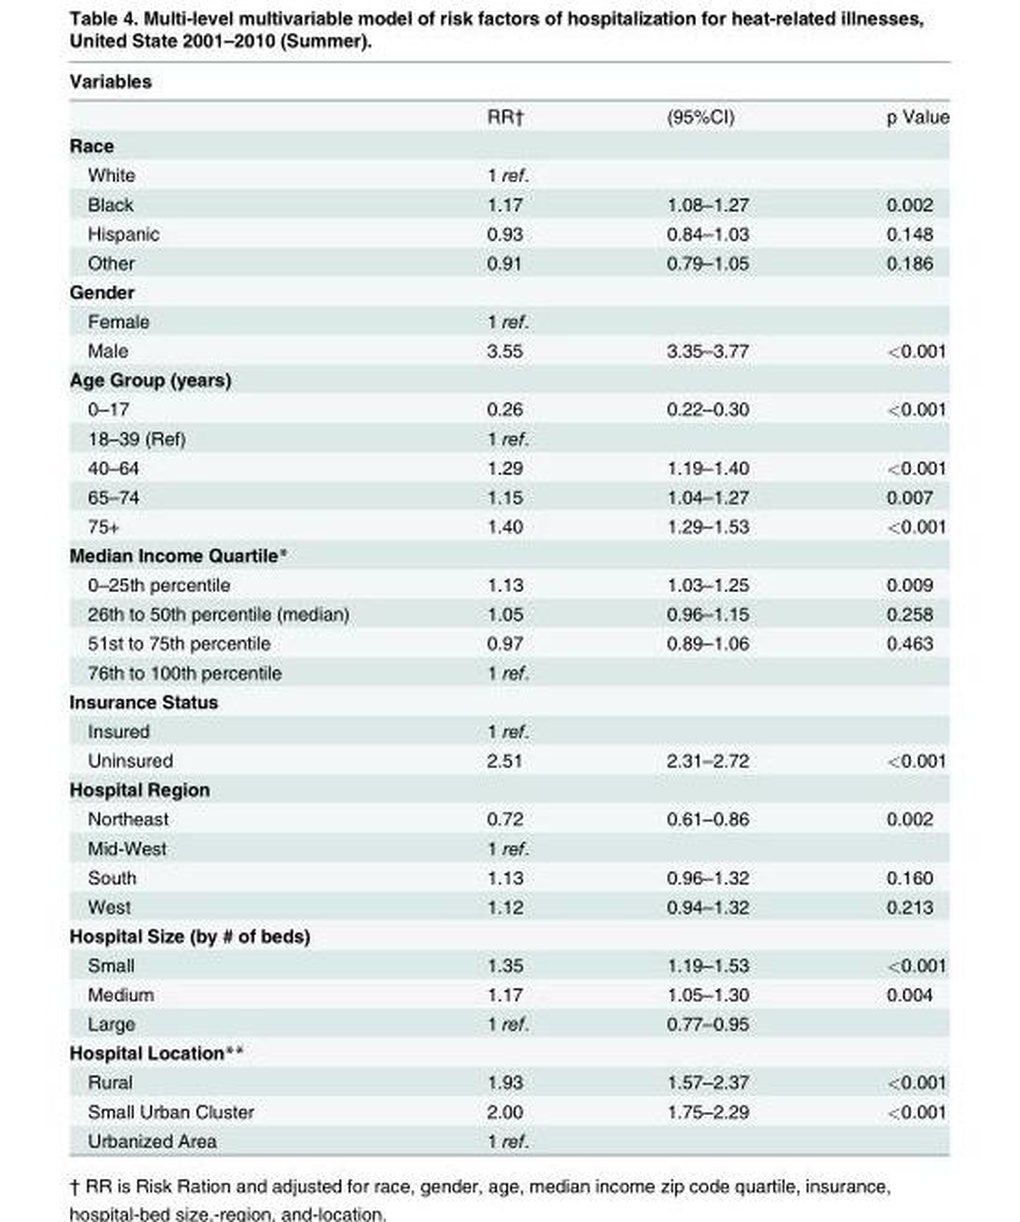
<table><thead><tr><td>Variables</td><td></td><td></td><td></td></tr></thead><tbody><tr><td></td><td>RR†</td><td>(95%CI)</td><td>p Value</td></tr><tr><td colspan="4">Race</td></tr><tr><td>White</td><td>1 ref.</td><td></td><td></td></tr><tr><td>Black</td><td>1.17</td><td>1.08–1.27</td><td>0.002</td></tr><tr><td>Hispanic</td><td>0.93</td><td>0.84–1.03</td><td>0.148</td></tr><tr><td>Other</td><td>0.91</td><td>0.79–1.05</td><td>0.186</td></tr><tr><td colspan="4">Gender</td></tr><tr><td>Female</td><td>1 ref.</td><td></td><td></td></tr><tr><td>Male</td><td>3.55</td><td>3.35–3.77</td><td>&lt;0.001</td></tr><tr><td colspan="4">Age Group (years)</td></tr><tr><td>0–17</td><td>0.26</td><td>0.22–0.30</td><td>&lt;0.001</td></tr><tr><td>18–39 (Ref)</td><td>1 ref.</td><td></td><td></td></tr><tr><td>40–64</td><td>1.29</td><td>1.19–1.40</td><td>&lt;0.001</td></tr><tr><td>65–74</td><td>1.15</td><td>1.04–1.27</td><td>0.007</td></tr><tr><td>75+</td><td>1.40</td><td>1.29–1.53</td><td>&lt;0.001</td></tr><tr><td colspan="4">Median Income Quartile*</td></tr><tr><td>0–25th percentile</td><td>1.13</td><td>1.03–1.25</td><td>0.009</td></tr><tr><td>26th to 50th percentile (median)</td><td>1.05</td><td>0.96–1.15</td><td>0.258</td></tr><tr><td>51st to 75th percentile</td><td>0.97</td><td>0.89–1.06</td><td>0.463</td></tr><tr><td>76th to 100th percentile</td><td>1 ref.</td><td></td><td></td></tr><tr><td colspan="4">Insurance Status</td></tr><tr><td>Insured</td><td>1 ref.</td><td></td><td></td></tr><tr><td>Uninsured</td><td>2.51</td><td>2.31–2.72</td><td>&lt;0.001</td></tr><tr><td colspan="4">Hospital Region</td></tr><tr><td>Northeast</td><td>0.72</td><td>0.61–0.86</td><td>0.002</td></tr><tr><td>Mid-West</td><td>1 ref.</td><td></td><td></td></tr><tr><td>South</td><td>1.13</td><td>0.96–1.32</td><td>0.160</td></tr><tr><td>West</td><td>1.12</td><td>0.94–1.32</td><td>0.213</td></tr><tr><td colspan="4">Hospital Size (by # of beds)</td></tr><tr><td>Small</td><td>1.35</td><td>1.19–1.53</td><td>&lt;0.001</td></tr><tr><td>Medium</td><td>1.17</td><td>1.05–1.30</td><td>0.004</td></tr><tr><td>Large</td><td>1 ref.</td><td>0.77–0.95</td><td></td></tr><tr><td colspan="4">Hospital Location**</td></tr><tr><td>Rural</td><td>1.93</td><td>1.57–2.37</td><td>&lt;0.001</td></tr><tr><td>Small Urban Cluster</td><td>2.00</td><td>1.75–2.29</td><td>&lt;0.001</td></tr><tr><td>Urbanized Area</td><td>1 ref.</td><td></td><td></td></tr></tbody></table>